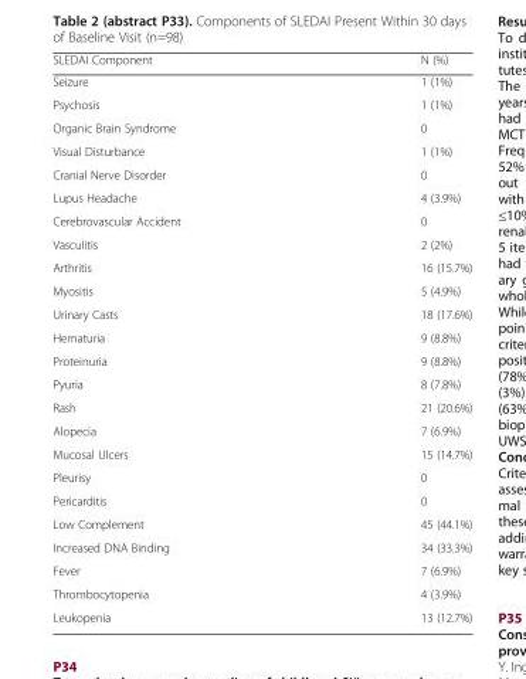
<table><thead><tr><td>SLEDAI Component</td><td>N (%)</td></tr></thead><tbody><tr><td>Seizure</td><td>1 (1%)</td></tr><tr><td>Psychosis</td><td>1 (1%)</td></tr><tr><td>Organic Brain Syndrome</td><td>0</td></tr><tr><td>Visual Disturbance</td><td>1 (1%)</td></tr><tr><td>Cranial Nerve Disorder</td><td>0</td></tr><tr><td>Lupus Headache</td><td>4 (3.9%)</td></tr><tr><td>Cerebrovascular Accident</td><td>0</td></tr><tr><td>Vasculitis</td><td>2 (2%)</td></tr><tr><td>Arthritis</td><td>16 (15.7%)</td></tr><tr><td>Myositis</td><td>5 (4.9%)</td></tr><tr><td>Urinary Casts</td><td>18 (17.6%)</td></tr><tr><td>Hematuria</td><td>9 (8.8%)</td></tr><tr><td>Proteinuria</td><td>9 (8.8%)</td></tr><tr><td>Pyuria</td><td>8 (7.8%)</td></tr><tr><td>Rash</td><td>21 (20.6%)</td></tr><tr><td>Alopecia</td><td>7 (6.9%)</td></tr><tr><td>Mucosal Ulcers</td><td>15 (14.7%)</td></tr><tr><td>Pleurisy</td><td>0</td></tr><tr><td>Pericarditis</td><td>0</td></tr><tr><td>Low Complement</td><td>45 (44.1%)</td></tr><tr><td>Increased DNA Binding</td><td>34 (33.3%)</td></tr><tr><td>Fever</td><td>7 (6.9%)</td></tr><tr><td>Thrombocytopenia</td><td>4 (3.9%)</td></tr><tr><td>Leukopenia</td><td>13 (12.7%)</td></tr></tbody></table>